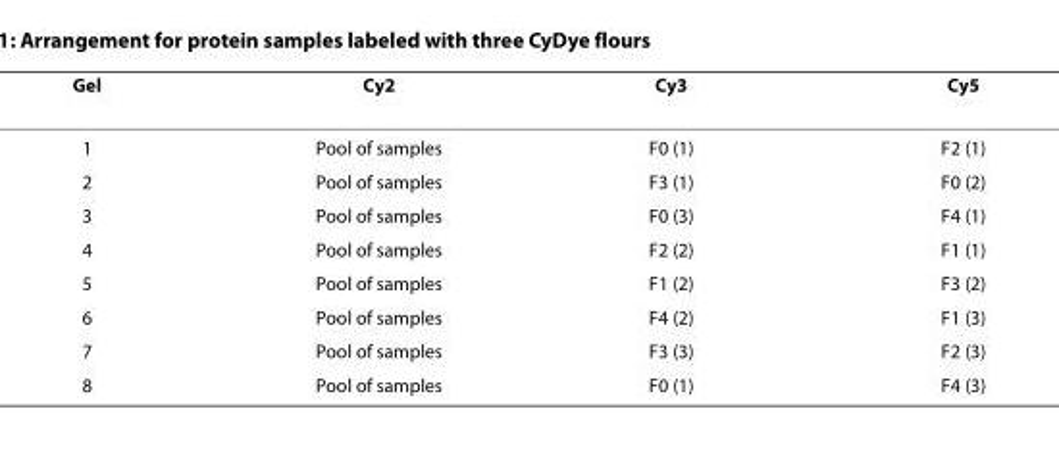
<table><thead><tr><td>Gel</td><td>Cy2</td><td>Cy3</td><td>Cy5</td></tr></thead><tbody><tr><td>1</td><td>Pool of samples</td><td>F0 (1)</td><td>F2 (1)</td></tr><tr><td>2</td><td>Pool of samples</td><td>F3 (1)</td><td>F0 (2)</td></tr><tr><td>3</td><td>Pool of samples</td><td>F0 (3)</td><td>F4 (1)</td></tr><tr><td>4</td><td>Pool of samples</td><td>F2 (2)</td><td>F1 (1)</td></tr><tr><td>5</td><td>Pool of samples</td><td>F1 (2)</td><td>F3 (2)</td></tr><tr><td>6</td><td>Pool of samples</td><td>F4 (2)</td><td>F1 (3)</td></tr><tr><td>7</td><td>Pool of samples</td><td>F3 (3)</td><td>F2 (3)</td></tr><tr><td>8</td><td>Pool of samples</td><td>F0 (1)</td><td>F4 (3)</td></tr></tbody></table>